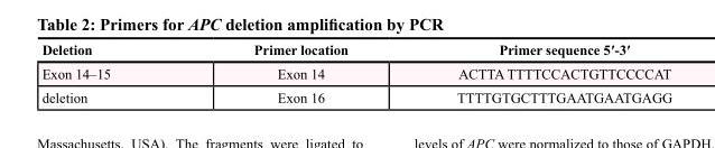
<table><thead><tr><td>Deletion</td><td>Primer location</td><td>Primer sequence 5′-3′</td></tr></thead><tbody><tr><td>Exon 14–15</td><td>Exon 14</td><td>ACTTA TTTTCCACTGTTCCCCAT</td></tr><tr><td>deletion</td><td>Exon 16</td><td>TTTTGTGCTTTGAATGAATGAGG</td></tr></tbody></table>